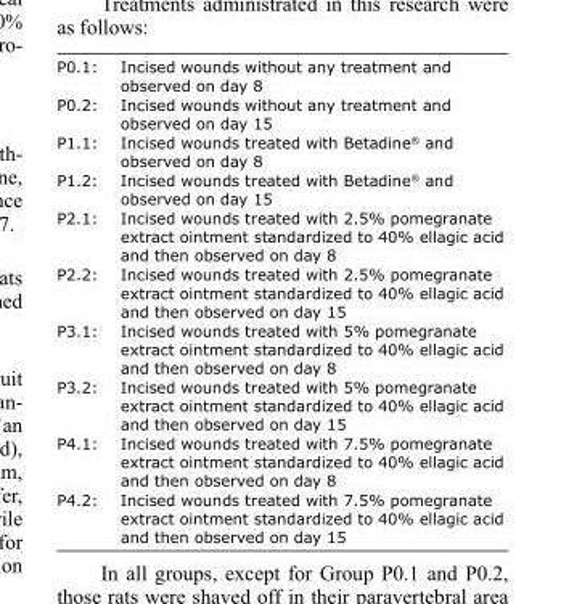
<table><tbody><tr><td>P0.1:</td><td>Incised wounds without any treatment and observed on day 8</td></tr><tr><td>P0.2:</td><td>Incised wounds without any treatment and observed on day 15</td></tr><tr><td>P1.1:</td><td>Incised wounds treated with Betadine<sup>®</sup> and observed on day 8</td></tr><tr><td>P1.2:</td><td>Incised wounds treated with Betadine<sup>®</sup> and observed on day 15</td></tr><tr><td>P2.1:</td><td>Incised wounds treated with 2.5% pomegranate extract ointment standardized to 40% ellagic acid and then observed on day 8</td></tr><tr><td>P2.2:</td><td>Incised wounds treated with 2.5% pomegranate extract ointment standardized to 40% ellagic acid and then observed on day 15</td></tr><tr><td>P3.1:</td><td>Incised wounds treated with 5% pomegranate extract ointment standardized to 40% ellagic acid and then observed on day 8</td></tr><tr><td>P3.2:</td><td>Incised wounds treated with 5% pomegranate extract ointment standardized to 40% ellagic acid and then observed on day 15</td></tr><tr><td>P4.1:</td><td>Incised wounds treated with 7.5% pomegranate extract ointment standardized to 40% ellagic acid and then observed on day 8</td></tr><tr><td>P4.2:</td><td>Incised wounds treated with 7.5% pomegranate extract ointment standardized to 40% ellagic acid and then observed on day 15</td></tr></tbody></table>